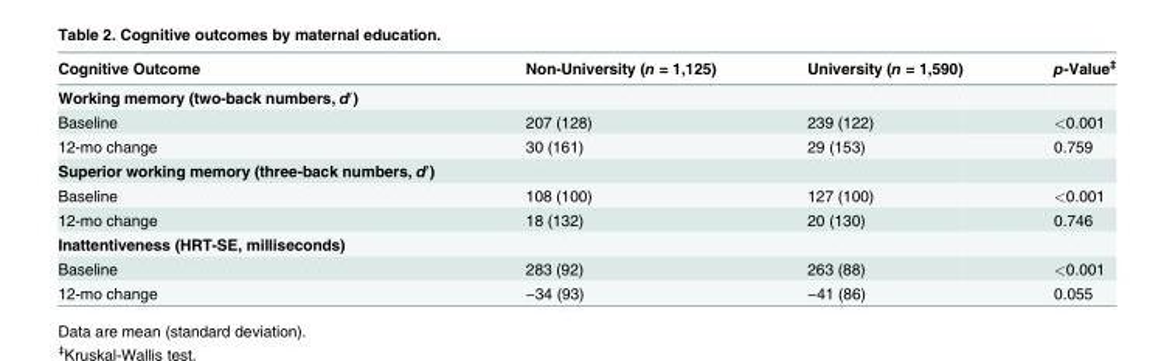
<table><thead><tr><td>Cognitive Outcome</td><td>Non-University (n = 1,125)</td><td>University (n = 1,590)</td><td>p-Value<sup>‡</sup></td></tr></thead><tbody><tr><td colspan="4">Working memory (two-back numbers, d′)</td></tr><tr><td>Baseline</td><td>207 (128)</td><td>239 (122)</td><td>&lt;0.001</td></tr><tr><td>12-mo change</td><td>30 (161)</td><td>29 (153)</td><td>0.759</td></tr><tr><td colspan="4">Superior working memory (three-back numbers, d′)</td></tr><tr><td>Baseline</td><td>108 (100)</td><td>127 (100)</td><td>&lt;0.001</td></tr><tr><td>12-mo change</td><td>18 (132)</td><td>20 (130)</td><td>0.746</td></tr><tr><td colspan="4">Inattentiveness (HRT-SE, milliseconds)</td></tr><tr><td>Baseline</td><td>283 (92)</td><td>263 (88)</td><td>&lt;0.001</td></tr><tr><td>12-mo change</td><td>−34 (93)</td><td>−41 (86)</td><td>0.055</td></tr></tbody></table>